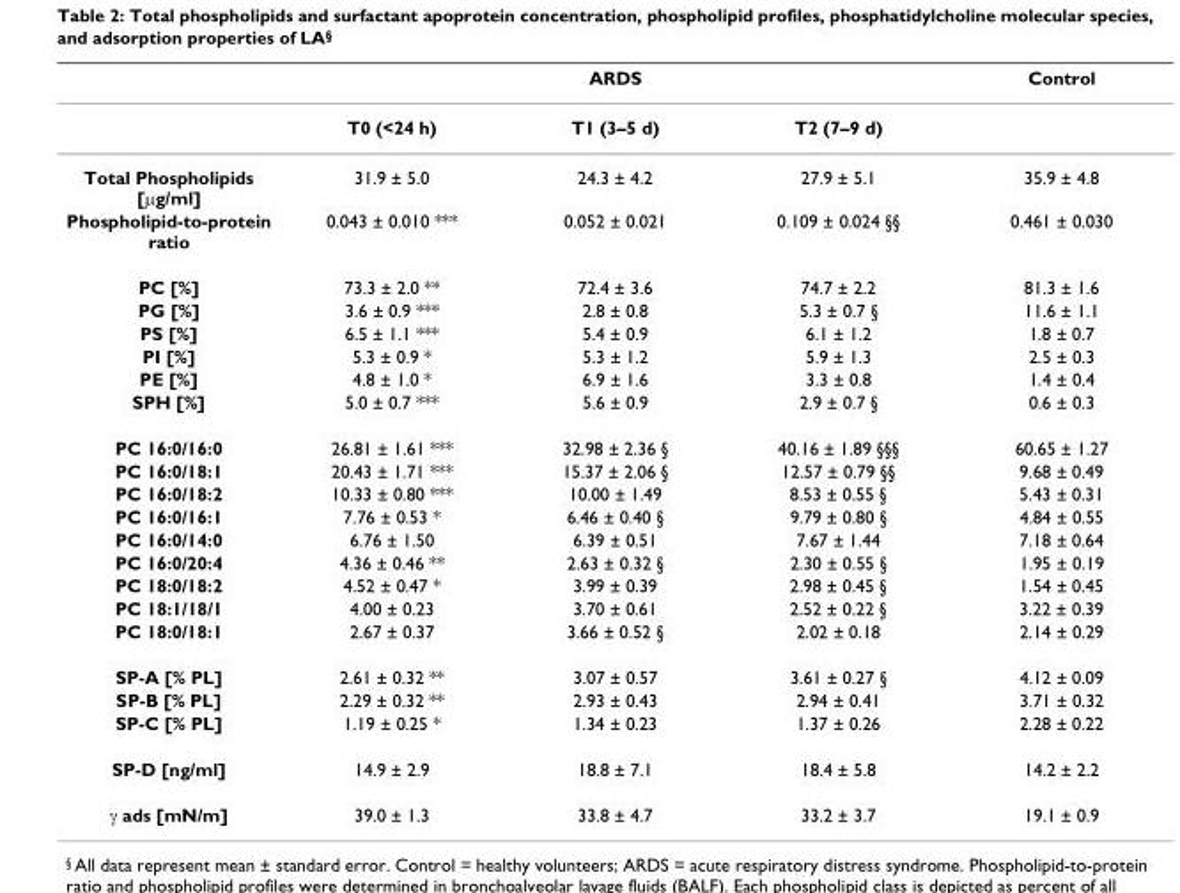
<table><thead><tr><td rowspan="2"></td><td colspan="3">ARDS</td><td rowspan="2">Control</td></tr><tr><td>T0 (&lt;24 h)</td><td>T1 (3–5 d)</td><td>T2 (7–9 d)</td></tr></thead><tbody><tr><td>Total Phospholipids [µg/ml]</td><td>31.9 ± 5.0</td><td>24.3 ± 4.2</td><td>27.9 ± 5.1</td><td>35.9 ± 4.8</td></tr><tr><td>Phospholipid-to-protein ratio</td><td>0.043 ± 0.010 ***</td><td>0.052 ± 0.021</td><td>0.109 ± 0.024 §§</td><td>0.461 ± 0.030</td></tr><tr><td>PC [%]</td><td>73.3 ± 2.0 **</td><td>72.4 ± 3.6</td><td>74.7 ± 2.2</td><td>81.3 ± 1.6</td></tr><tr><td>PG [%]</td><td>3.6 ± 0.9 ***</td><td>2.8 ± 0.8</td><td>5.3 ± 0.7 §</td><td>11.6 ± 1.1</td></tr><tr><td>PS [%]</td><td>6.5 ± 1.1 ***</td><td>5.4 ± 0.9</td><td>6.1 ± 1.2</td><td>1.8 ± 0.7</td></tr><tr><td>PI [%]</td><td>5.3 ± 0.9 *</td><td>5.3 ± 1.2</td><td>5.9 ± 1.3</td><td>2.5 ± 0.3</td></tr><tr><td>PE [%]</td><td>4.8 ± 1.0 *</td><td>6.9 ± 1.6</td><td>3.3 ± 0.8</td><td>1.4 ± 0.4</td></tr><tr><td>SPH [%]</td><td>5.0 ± 0.7 ***</td><td>5.6 ± 0.9</td><td>2.9 ± 0.7 §</td><td>0.6 ± 0.3</td></tr><tr><td>PC 16:0/16:0</td><td>26.81 ± 1.61 ***</td><td>32.98 ± 2.36 §</td><td>40.16 ± 1.89 §§§</td><td>60.65 ± 1.27</td></tr><tr><td>PC 16:0/18:1</td><td>20.43 ± 1.71 ***</td><td>15.37 ± 2.06 §</td><td>12.57 ± 0.79 §§</td><td>9.68 ± 0.49</td></tr><tr><td>PC 16:0/18:2</td><td>10.33 ± 0.80 ***</td><td>10.00 ± 1.49</td><td>8.53 ± 0.55 §</td><td>5.43 ± 0.31</td></tr><tr><td>PC 16:0/16:1</td><td>7.76 ± 0.53 *</td><td>6.46 ± 0.40 §</td><td>9.79 ± 0.80 §</td><td>4.84 ± 0.55</td></tr><tr><td>PC 16:0/14:0</td><td>6.76 ± 1.50</td><td>6.39 ± 0.51</td><td>7.67 ± 1.44</td><td>7.18 ± 0.64</td></tr><tr><td>PC 16:0/20:4</td><td>4.36 ± 0.46 **</td><td>2.63 ± 0.32 §</td><td>2.30 ± 0.55 §</td><td>1.95 ± 0.19</td></tr><tr><td>PC 18:0/18:2</td><td>4.52 ± 0.47 *</td><td>3.99 ± 0.39</td><td>2.98 ± 0.45 §</td><td>1.54 ± 0.45</td></tr><tr><td>PC 18:1/18/1</td><td>4.00 ± 0.23</td><td>3.70 ± 0.61</td><td>2.52 ± 0.22 §</td><td>3.22 ± 0.39</td></tr><tr><td>PC 18:0/18:1</td><td>2.67 ± 0.37</td><td>3.66 ± 0.52 §</td><td>2.02 ± 0.18</td><td>2.14 ± 0.29</td></tr><tr><td>SP-A [% PL]</td><td>2.61 ± 0.32 **</td><td>3.07 ± 0.57</td><td>3.61 ± 0.27 §</td><td>4.12 ± 0.09</td></tr><tr><td>SP-B [% PL]</td><td>2.29 ± 0.32 **</td><td>2.93 ± 0.43</td><td>2.94 ± 0.41</td><td>3.71 ± 0.32</td></tr><tr><td>SP-C [% PL]</td><td>1.19 ± 0.25 *</td><td>1.34 ± 0.23</td><td>1.37 ± 0.26</td><td>2.28 ± 0.22</td></tr><tr><td>SP-D [ng/ml]</td><td>14.9 ± 2.9</td><td>18.8 ± 7.1</td><td>18.4 ± 5.8</td><td>14.2 ± 2.2</td></tr><tr><td>γ ads [mN/m]</td><td>39.0 ± 1.3</td><td>33.8 ± 4.7</td><td>33.2 ± 3.7</td><td>19.1 ± 0.9</td></tr></tbody></table>